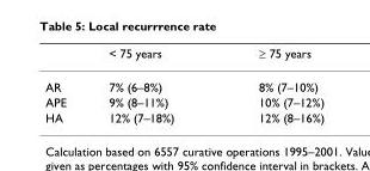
<table><thead><tr><td></td><td>&lt; 75 years</td><td>≥ 75 years</td></tr></thead><tbody><tr><td>AR</td><td>7% (6–8%)</td><td>8% (7–10%)</td></tr><tr><td>APE</td><td>9% (8–11%)</td><td>10% (7–12%)</td></tr><tr><td>HA</td><td>12% (7–18%)</td><td>12% (8–16%)</td></tr></tbody></table>